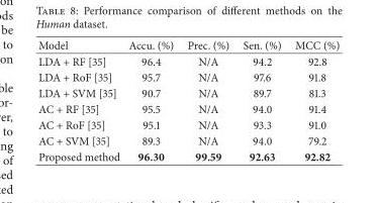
<table><thead><tr><td>Model</td><td>Accu. (%)</td><td>Prec. (%)</td><td>Sen. (%)</td><td>MCC (%)</td></tr></thead><tbody><tr><td>LDA + RF [35]</td><td>96.4</td><td>N/A</td><td>94.2</td><td>92.8</td></tr><tr><td>LDA + RoF [35]</td><td>95.7</td><td>N/A</td><td>97.6</td><td>91.8</td></tr><tr><td>LDA + SVM [35]</td><td>90.7</td><td>N/A</td><td>89.7</td><td>81.3</td></tr><tr><td>AC + RF [35]</td><td>95.5</td><td>N/A</td><td>94.0</td><td>91.4</td></tr><tr><td>AC + RoF [35]</td><td>95.1</td><td>N/A</td><td>93.3</td><td>91.0</td></tr><tr><td>AC + SVM [35]</td><td>89.3</td><td>N/A</td><td>94.0</td><td>79.2</td></tr><tr><td>Proposed method</td><td>96.30</td><td>99.59</td><td>92.63</td><td>92.82</td></tr></tbody></table>